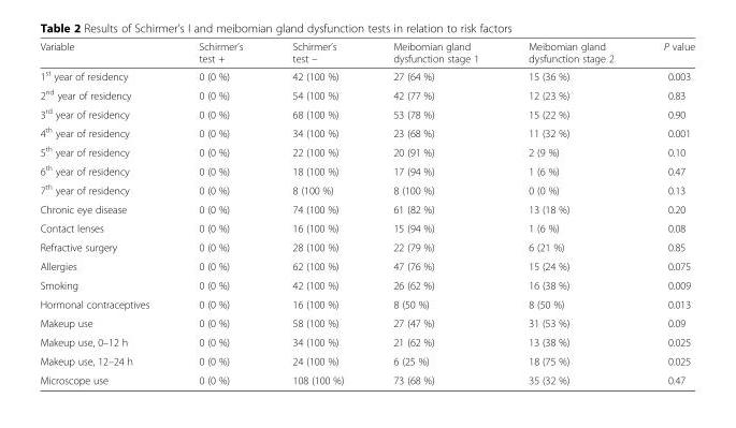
<table><thead><tr><td>Variable</td><td>Schirmer’s test +</td><td>Schirmer’s test –</td><td>Meibomian gland dysfunction stage 1</td><td>Meibomian gland dysfunction stage 2</td><td>P value</td></tr></thead><tbody><tr><td>1<sup>st</sup> year of residency</td><td>0 (0 %)</td><td>42 (100 %)</td><td>27 (64 %)</td><td>15 (36 %)</td><td>0.003</td></tr><tr><td>2<sup>nd</sup> year of residency</td><td>0 (0 %)</td><td>54 (100 %)</td><td>42 (77 %)</td><td>12 (23 %)</td><td>0.83</td></tr><tr><td>3<sup>rd</sup> year of residency</td><td>0 (0 %)</td><td>68 (100 %)</td><td>53 (78 %)</td><td>15 (22 %)</td><td>0.90</td></tr><tr><td>4<sup>th</sup> year of residency</td><td>0 (0 %)</td><td>34 (100 %)</td><td>23 (68 %)</td><td>11 (32 %)</td><td>0.001</td></tr><tr><td>5<sup>th</sup> year of residency</td><td>0 (0 %)</td><td>22 (100 %)</td><td>20 (91 %)</td><td>2 (9 %)</td><td>0.10</td></tr><tr><td>6<sup>th</sup> year of residency</td><td>0 (0 %)</td><td>18 (100 %)</td><td>17 (94 %)</td><td>1 (6 %)</td><td>0.47</td></tr><tr><td>7<sup>th</sup> year of residency</td><td>0 (0 %)</td><td>8 (100 %)</td><td>8 (100 %)</td><td>0 (0 %)</td><td>0.13</td></tr><tr><td>Chronic eye disease</td><td>0 (0 %)</td><td>74 (100 %)</td><td>61 (82 %)</td><td>13 (18 %)</td><td>0.20</td></tr><tr><td>Contact lenses</td><td>0 (0 %)</td><td>16 (100 %)</td><td>15 (94 %)</td><td>1 (6 %)</td><td>0.08</td></tr><tr><td>Refractive surgery</td><td>0 (0 %)</td><td>28 (100 %)</td><td>22 (79 %)</td><td>6 (21 %)</td><td>0.85</td></tr><tr><td>Allergies</td><td>0 (0 %)</td><td>62 (100 %)</td><td>47 (76 %)</td><td>15 (24 %)</td><td>0.075</td></tr><tr><td>Smoking</td><td>0 (0 %)</td><td>42 (100 %)</td><td>26 (62 %)</td><td>16 (38 %)</td><td>0.009</td></tr><tr><td>Hormonal contraceptives</td><td>0 (0 %)</td><td>16 (100 %)</td><td>8 (50 %)</td><td>8 (50 %)</td><td>0.013</td></tr><tr><td>Makeup use</td><td>0 (0 %)</td><td>58 (100 %)</td><td>27 (47 %)</td><td>31 (53 %)</td><td>0.09</td></tr><tr><td>Makeup use, 0–12 h</td><td>0 (0 %)</td><td>34 (100 %)</td><td>21 (62 %)</td><td>13 (38 %)</td><td>0.025</td></tr><tr><td>Makeup use, 12–24 h</td><td>0 (0 %)</td><td>24 (100 %)</td><td>6 (25 %)</td><td>18 (75 %)</td><td>0.025</td></tr><tr><td>Microscope use</td><td>0 (0 %)</td><td>108 (100 %)</td><td>73 (68 %)</td><td>35 (32 %)</td><td>0.47</td></tr></tbody></table>